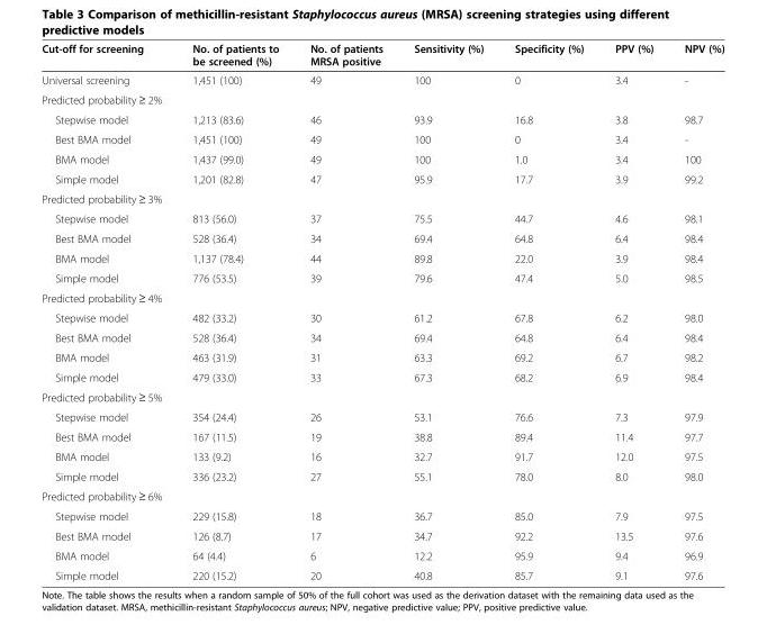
<table><thead><tr><td>Cut-off for screening</td><td>No. of patients to be screened (%)</td><td>No. of patients MRSA positive</td><td>Sensitivity (%)</td><td>Specificity (%)</td><td>PPV (%)</td><td>NPV (%)</td></tr></thead><tbody><tr><td>Universal screening</td><td>1,451 (100)</td><td>49</td><td>100</td><td>0</td><td>3.4</td><td>-</td></tr><tr><td colspan="7">Predicted probability ≥ 2%</td></tr><tr><td>Stepwise model</td><td>1,213 (83.6)</td><td>46</td><td>93.9</td><td>16.8</td><td>3.8</td><td>98.7</td></tr><tr><td>Best BMA model</td><td>1,451 (100)</td><td>49</td><td>100</td><td>0</td><td>3.4</td><td>-</td></tr><tr><td>BMA model</td><td>1,437 (99.0)</td><td>49</td><td>100</td><td>1.0</td><td>3.4</td><td>100</td></tr><tr><td>Simple model</td><td>1,201 (82.8)</td><td>47</td><td>95.9</td><td>17.7</td><td>3.9</td><td>99.2</td></tr><tr><td colspan="7">Predicted probability ≥ 3%</td></tr><tr><td>Stepwise model</td><td>813 (56.0)</td><td>37</td><td>75.5</td><td>44.7</td><td>4.6</td><td>98.1</td></tr><tr><td>Best BMA model</td><td>528 (36.4)</td><td>34</td><td>69.4</td><td>64.8</td><td>6.4</td><td>98.4</td></tr><tr><td>BMA model</td><td>1,137 (78.4)</td><td>44</td><td>89.8</td><td>22.0</td><td>3.9</td><td>98.4</td></tr><tr><td>Simple model</td><td>776 (53.5)</td><td>39</td><td>79.6</td><td>47.4</td><td>5.0</td><td>98.5</td></tr><tr><td colspan="7">Predicted probability ≥ 4%</td></tr><tr><td>Stepwise model</td><td>482 (33.2)</td><td>30</td><td>61.2</td><td>67.8</td><td>6.2</td><td>98.0</td></tr><tr><td>Best BMA model</td><td>528 (36.4)</td><td>34</td><td>69.4</td><td>64.8</td><td>6.4</td><td>98.4</td></tr><tr><td>BMA model</td><td>463 (31.9)</td><td>31</td><td>63.3</td><td>69.2</td><td>6.7</td><td>98.2</td></tr><tr><td>Simple model</td><td>479 (33.0)</td><td>33</td><td>67.3</td><td>68.2</td><td>6.9</td><td>98.4</td></tr><tr><td colspan="7">Predicted probability ≥ 5%</td></tr><tr><td>Stepwise model</td><td>354 (24.4)</td><td>26</td><td>53.1</td><td>76.6</td><td>7.3</td><td>97.9</td></tr><tr><td>Best BMA model</td><td>167 (11.5)</td><td>19</td><td>38.8</td><td>89.4</td><td>11.4</td><td>97.7</td></tr><tr><td>BMA model</td><td>133 (9.2)</td><td>16</td><td>32.7</td><td>91.7</td><td>12.0</td><td>97.5</td></tr><tr><td>Simple model</td><td>336 (23.2)</td><td>27</td><td>55.1</td><td>78.0</td><td>8.0</td><td>98.0</td></tr><tr><td colspan="7">Predicted probability ≥ 6%</td></tr><tr><td>Stepwise model</td><td>229 (15.8)</td><td>18</td><td>36.7</td><td>85.0</td><td>7.9</td><td>97.5</td></tr><tr><td>Best BMA model</td><td>126 (8.7)</td><td>17</td><td>34.7</td><td>92.2</td><td>13.5</td><td>97.6</td></tr><tr><td>BMA model</td><td>64 (4.4)</td><td>6</td><td>12.2</td><td>95.9</td><td>9.4</td><td>96.9</td></tr><tr><td>Simple model</td><td>220 (15.2)</td><td>20</td><td>40.8</td><td>85.7</td><td>9.1</td><td>97.6</td></tr></tbody></table>